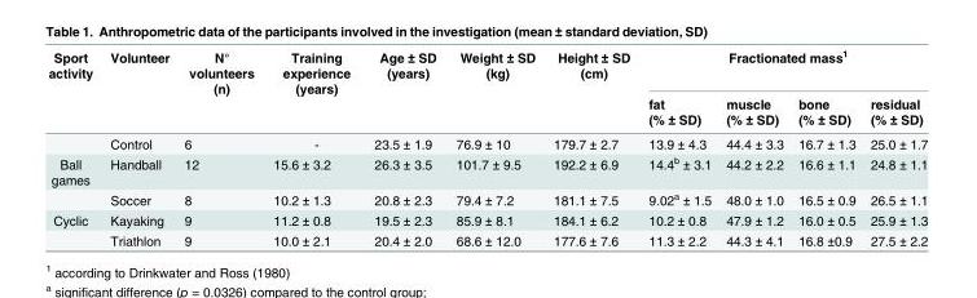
<table><thead><tr><td rowspan="3">Sport activity</td><td rowspan="3">Volunteer</td><td rowspan="3">N° volunteers (n)</td><td rowspan="3">Training experience (years)</td><td rowspan="3">Age ± SD (years)</td><td rowspan="3">Weight ± SD (kg)</td><td rowspan="3">Height ± SD (cm)</td><td colspan="4">Fractionated mass<sup>1</sup></td></tr><tr><td rowspan="2">fat (% ± SD)</td><td rowspan="2">muscle (% ± SD)</td><td rowspan="2">bone (% ± SD)</td><td rowspan="2">residual (% ± SD)</td></tr><tr></tr></thead><tbody><tr><td></td><td>Control</td><td>6</td><td>-</td><td>23.5 ± 1.9</td><td>76.9 ± 10</td><td>179.7 ± 2.7</td><td>13.9 ± 4.3</td><td>44.4 ± 3.3</td><td>16.7 ± 1.3</td><td>25.0 ± 1.7</td></tr><tr><td rowspan="2">Ball games</td><td>Handball</td><td>12</td><td>15.6 ± 3.2</td><td>26.3 ± 3.5</td><td>101.7 ± 9.5</td><td>192.2 ± 6.9</td><td>14.4<sup>b</sup> ± 3.1</td><td>44.2 ± 2.2</td><td>16.6 ± 1.1</td><td>24.8 ± 1.1</td></tr><tr><td>Soccer</td><td>8</td><td>10.2 ± 1.3</td><td>20.8 ± 2.3</td><td>79.4 ± 7.2</td><td>181.1 ± 7.5</td><td>9.02<sup>a</sup> ± 1.5</td><td>48.0 ± 1.0</td><td>16.5 ± 0.9</td><td>26.5 ± 1.1</td></tr><tr><td rowspan="2">Cyclic</td><td>Kayaking</td><td>9</td><td>11.2 ± 0.8</td><td>19.5 ± 2.3</td><td>85.9 ± 8.1</td><td>184.1 ± 6.2</td><td>10.2 ± 0.8</td><td>47.9 ± 1.2</td><td>16.0 ± 0.5</td><td>25.9 ± 1.3</td></tr><tr><td>Triathlon</td><td>9</td><td>10.0 ± 2.1</td><td>20.4 ± 2.0</td><td>68.6 ± 12.0</td><td>177.6 ± 7.6</td><td>11.3 ± 2.2</td><td>44.3 ± 4.1</td><td>16.8 ±0.9</td><td>27.5 ± 2.2</td></tr></tbody></table>